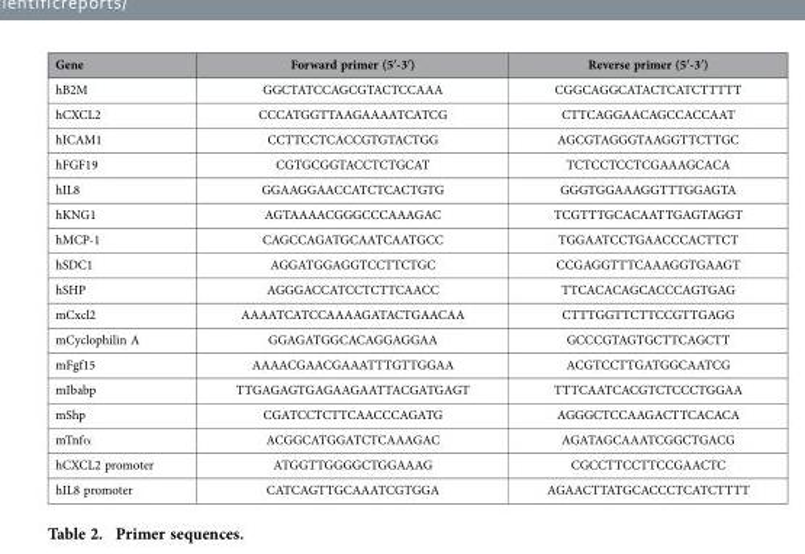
<table><thead><tr><td>Gene</td><td>Forward primer (5′-3′)</td><td>Reverse primer (5′-3′)</td></tr></thead><tbody><tr><td>hB2M</td><td>GGCTATCCAGCGTACTCCAAA</td><td>CGGCAGGCATACTCATCTTTTT</td></tr><tr><td>hCXCL2</td><td>CCCATGGTTAAGAAAATCATCG</td><td>CTTCAGGAACAGCCACCAAT</td></tr><tr><td>hICAM1</td><td>CCTTCCTCACCGTGTACTGG</td><td>AGCGTAGGGTAAGGTTCTTGC</td></tr><tr><td>hFGF19</td><td>CGTGCGGTACCTCTGCAT</td><td>TCTCCTCCTCGAAAGCACA</td></tr><tr><td>hIL8</td><td>GGAAGGAACCATCTCACTGTG</td><td>GGGTGGAAAGGTTTGGAGTA</td></tr><tr><td>hKNG1</td><td>AGTAAAACGGGCCCAAAGAC</td><td>TCGTTTGCACAATTGAGTAGGT</td></tr><tr><td>hMCP-1</td><td>CAGCCAGATGCAATCAATGCC</td><td>TGGAATCCTGAACCCACTTCT</td></tr><tr><td>hSDC1</td><td>AGGATGGAGGTCCTTCTGC</td><td>CCGAGGTTTCAAAGGTGAAGT</td></tr><tr><td>hSHP</td><td>AGGGACCATCCTCTTCAACC</td><td>TTCACACAGCACCCAGTGAG</td></tr><tr><td>mCxcl2</td><td>AAAATCATCCAAAAGATACTGAACAA</td><td>CTTTGGTTCTTCCGTTGAGG</td></tr><tr><td>mCyclophilin A</td><td>GGAGATGGCACAGGAGGAA</td><td>GCCCGTAGTGCTTCAGCTT</td></tr><tr><td>mFgf15</td><td>AAAACGAACGAAATTTGTTGGAA</td><td>ACGTCCTTGATGGCAATCG</td></tr><tr><td>mIbabp</td><td>TTGAGAGTGAGAAGAATTACGATGAGT</td><td>TTTCAATCACGTCTCCCTGGAA</td></tr><tr><td>mShp</td><td>CGATCCTCTTCAACCCAGATG</td><td>AGGGCTCCAAGACTTCACACA</td></tr><tr><td>mTnfα</td><td>ACGGCATGGATCTCAAAGAC</td><td>AGATAGCAAATCGGCTGACG</td></tr><tr><td>hCXCL2 promoter</td><td>ATGGTTGGGGCTGGAAAG</td><td>CGCCTTCCTTCCGAACTC</td></tr><tr><td>hIL8 promoter</td><td>CATCAGTTGCAAATCGTGGA</td><td>AGAACTTATGCACCCTCATCTTTT</td></tr></tbody></table>